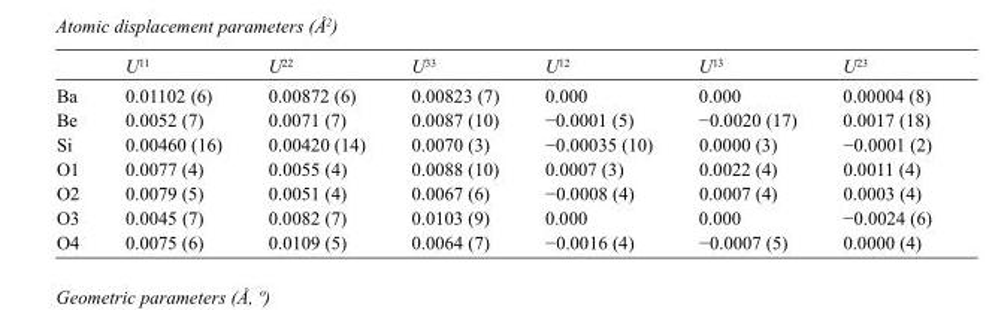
<table><thead><tr><td></td><td>U<sup>11</sup></td><td>U<sup>22</sup></td><td>U<sup>33</sup></td><td>U<sup>12</sup></td><td>U<sup>13</sup></td><td>U<sup>23</sup></td></tr></thead><tbody><tr><td>Ba</td><td>0.01102 (6)</td><td>0.00872 (6)</td><td>0.00823 (7)</td><td>0.000</td><td>0.000</td><td>0.00004 (8)</td></tr><tr><td>Be</td><td>0.0052 (7)</td><td>0.0071 (7)</td><td>0.0087 (10)</td><td>−0.0001 (5)</td><td>−0.0020 (17)</td><td>0.0017 (18)</td></tr><tr><td>Si</td><td>0.00460 (16)</td><td>0.00420 (14)</td><td>0.0070 (3)</td><td>−0.00035 (10)</td><td>0.0000 (3)</td><td>−0.0001 (2)</td></tr><tr><td>O1</td><td>0.0077 (4)</td><td>0.0055 (4)</td><td>0.0088 (10)</td><td>0.0007 (3)</td><td>0.0022 (4)</td><td>0.0011 (4)</td></tr><tr><td>O2</td><td>0.0079 (5)</td><td>0.0051 (4)</td><td>0.0067 (6)</td><td>−0.0008 (4)</td><td>0.0007 (4)</td><td>0.0003 (4)</td></tr><tr><td>O3</td><td>0.0045 (7)</td><td>0.0082 (7)</td><td>0.0103 (9)</td><td>0.000</td><td>0.000</td><td>−0.0024 (6)</td></tr><tr><td>O4</td><td>0.0075 (6)</td><td>0.0109 (5)</td><td>0.0064 (7)</td><td>−0.0016 (4)</td><td>−0.0007 (5)</td><td>0.0000 (4)</td></tr></tbody></table>